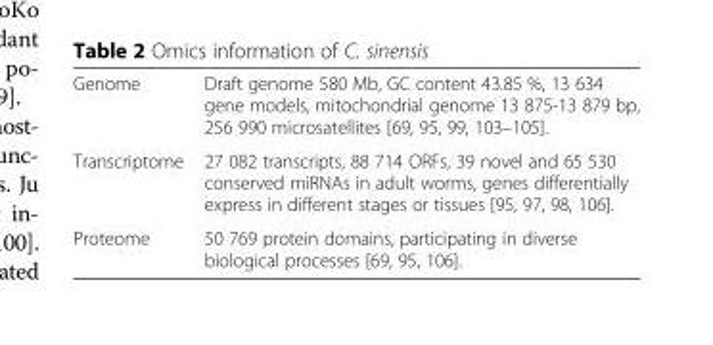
<table><tbody><tr><td>Genome</td><td>Draft genome 580 Mb, GC content 43.85 %, 13 634 gene models, mitochondrial genome 13 875-13 879 bp, 256 990 microsatellites [69, 95, 99, 103–105].</td></tr><tr><td>Transcriptome</td><td>27 082 transcripts, 88 714 ORFs, 39 novel and 65 530 conserved miRNAs in adult worms, genes differentially express in different stages or tissues [95, 97, 98, 106].</td></tr><tr><td>Proteome</td><td>50 769 protein domains, participating in diverse biological processes [69, 95, 106].</td></tr></tbody></table>